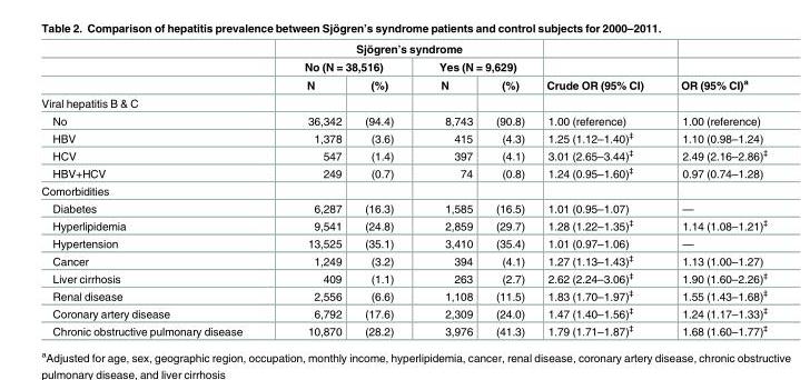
<table><thead><tr><td rowspan="3"></td><td colspan="4">Sjögren’s syndrome</td><td rowspan="3">Crude OR (95% CI)</td><td rowspan="3">OR (95% CI)<sup>a</sup></td></tr><tr><td colspan="2">No (N = 38,516)</td><td colspan="2">Yes (N = 9,629)</td></tr><tr><td>N</td><td>(%)</td><td>N</td><td>(%)</td></tr></thead><tbody><tr><td colspan="7">Viral hepatitis B &amp; C</td></tr><tr><td>No</td><td>36,342</td><td>(94.4)</td><td>8,743</td><td>(90.8)</td><td>1.00 (reference)</td><td>1.00 (reference)</td></tr><tr><td>HBV</td><td>1,378</td><td>(3.6)</td><td>415</td><td>(4.3)</td><td>1.25 (1.12–1.40)<sup>‡</sup></td><td>1.10 (0.98–1.24)</td></tr><tr><td>HCV</td><td>547</td><td>(1.4)</td><td>397</td><td>(4.1)</td><td>3.01 (2.65–3.44)<sup>‡</sup></td><td>2.49 (2.16–2.86)<sup>‡</sup></td></tr><tr><td>HBV+HCV</td><td>249</td><td>(0.7)</td><td>74</td><td>(0.8)</td><td>1.24 (0.95–1.60)<sup>‡</sup></td><td>0.97 (0.74–1.28)</td></tr><tr><td colspan="7">Comorbidities</td></tr><tr><td>Diabetes</td><td>6,287</td><td>(16.3)</td><td>1,585</td><td>(16.5)</td><td>1.01 (0.95–1.07)</td><td>—</td></tr><tr><td>Hyperlipidemia</td><td>9,541</td><td>(24.8)</td><td>2,859</td><td>(29.7)</td><td>1.28 (1.22–1.35)<sup>‡</sup></td><td>1.14 (1.08–1.21)<sup>‡</sup></td></tr><tr><td>Hypertension</td><td>13,525</td><td>(35.1)</td><td>3,410</td><td>(35.4)</td><td>1.01 (0.97–1.06)</td><td>—</td></tr><tr><td>Cancer</td><td>1,249</td><td>(3.2)</td><td>394</td><td>(4.1)</td><td>1.27 (1.13–1.43)<sup>‡</sup></td><td>1.13 (1.00–1.27)</td></tr><tr><td>Liver cirrhosis</td><td>409</td><td>(1.1)</td><td>263</td><td>(2.7)</td><td>2.62 (2.24–3.06)<sup>‡</sup></td><td>1.90 (1.60–2.26)<sup>‡</sup></td></tr><tr><td>Renal disease</td><td>2,556</td><td>(6.6)</td><td>1,108</td><td>(11.5)</td><td>1.83 (1.70–1.97)<sup>‡</sup></td><td>1.55 (1.43–1.68)<sup>‡</sup></td></tr><tr><td>Coronary artery disease</td><td>6,792</td><td>(17.6)</td><td>2,309</td><td>(24.0)</td><td>1.47 (1.40–1.56)<sup>‡</sup></td><td>1.24 (1.17–1.33)<sup>‡</sup></td></tr><tr><td>Chronic obstructive pulmonary disease</td><td>10,870</td><td>(28.2)</td><td>3,976</td><td>(41.3)</td><td>1.79 (1.71–1.87)<sup>‡</sup></td><td>1.68 (1.60–1.77)<sup>‡</sup></td></tr></tbody></table>